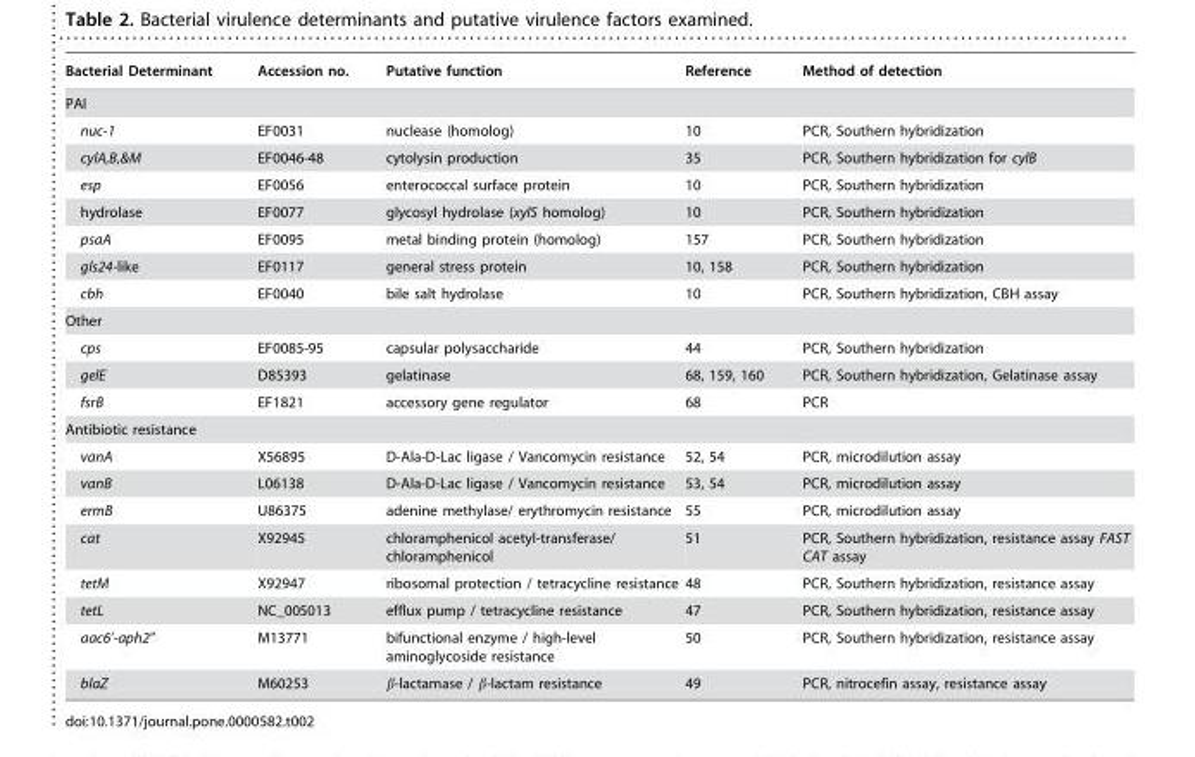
<table><thead><tr><td>Bacterial Determinant</td><td>Accession no.</td><td>Putative function</td><td>Reference</td><td>Method of detection</td></tr></thead><tbody><tr><td colspan="5">PAI</td></tr><tr><td>nuc-1</td><td>EF0031</td><td>nuclease (homolog)</td><td>10</td><td>PCR, Southern hybridization</td></tr><tr><td>cylA,B,&amp;M</td><td>EF0046-48</td><td>cytolysin production</td><td>35</td><td>PCR, Southern hybridization for cylB</td></tr><tr><td>esp</td><td>EF0056</td><td>enterococcal surface protein</td><td>10</td><td>PCR, Southern hybridization</td></tr><tr><td>hydrolase</td><td>EF0077</td><td>glycosyl hydrolase (xylS homolog)</td><td>10</td><td>PCR, Southern hybridization</td></tr><tr><td>psaA</td><td>EF0095</td><td>metal binding protein (homolog)</td><td>157</td><td>PCR, Southern hybridization</td></tr><tr><td>gls24-like</td><td>EF0117</td><td>general stress protein</td><td>10, 158</td><td>PCR, Southern hybridization</td></tr><tr><td>cbh</td><td>EF0040</td><td>bile salt hydrolase</td><td>10</td><td>PCR, Southern hybridization, CBH assay</td></tr><tr><td colspan="5">Other</td></tr><tr><td>cps</td><td>EF0085-95</td><td>capsular polysaccharide</td><td>44</td><td>PCR, Southern hybridization</td></tr><tr><td>gelE</td><td>D85393</td><td>gelatinase</td><td>68, 159, 160</td><td>PCR, Southern hybridization, Gelatinase assay</td></tr><tr><td>fsrB</td><td>EF1821</td><td>accessory gene regulator</td><td>68</td><td>PCR</td></tr><tr><td colspan="5">Antibiotic resistance</td></tr><tr><td>vanA</td><td>X56895</td><td>D-Ala-D-Lac ligase / Vancomycin resistance</td><td>52, 54</td><td>PCR, microdilution assay</td></tr><tr><td>vanB</td><td>L06138</td><td>D-Ala-D-Lac ligase / Vancomycin resistance</td><td>53, 54</td><td>PCR, microdilution assay</td></tr><tr><td>ermB</td><td>U86375</td><td>adenine methylase/ erythromycin resistance</td><td>55</td><td>PCR, microdilution assay</td></tr><tr><td>cat</td><td>X92945</td><td>chloramphenicol acetyl-transferase/ chloramphenicol</td><td>51</td><td>PCR, Southern hybridization, resistance assay FAST CAT assay</td></tr><tr><td>tetM</td><td>X92947</td><td>ribosomal protection / tetracycline resistance</td><td>48</td><td>PCR, Southern hybridization, resistance assay</td></tr><tr><td>tetL</td><td>NC_005013</td><td>efflux pump / tetracycline resistance</td><td>47</td><td>PCR, Southern hybridization, resistance assay</td></tr><tr><td>aac6’-aph2&quot;</td><td>M13771</td><td>bifunctional enzyme / high-level aminoglycoside resistance</td><td>50</td><td>PCR, Southern hybridization, resistance assay</td></tr><tr><td>blaZ</td><td>M60253</td><td>β-lactamase / β-lactam resistance</td><td>49</td><td>PCR, nitrocefin assay, resistance assay</td></tr></tbody></table>